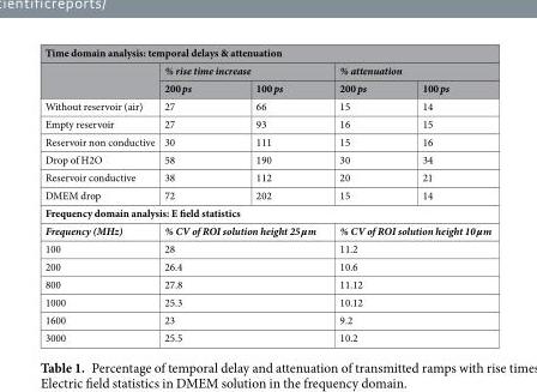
<table><thead><tr><td colspan="5">Time domain analysis: temporal delays &amp; attenuation</td></tr><tr><td rowspan="2"></td><td colspan="2">% rise time increase</td><td colspan="2">% attenuation</td></tr><tr><td>200 ps</td><td>100 ps</td><td>200 ps</td><td>100 ps</td></tr></thead><tbody><tr><td>Without reservoir (air)</td><td>27</td><td>66</td><td>15</td><td>14</td></tr><tr><td>Empty reservoir</td><td>27</td><td>93</td><td>16</td><td>15</td></tr><tr><td>Reservoir non conductive</td><td>30</td><td>111</td><td>15</td><td>16</td></tr><tr><td>Drop of H2O</td><td>58</td><td>190</td><td>30</td><td>34</td></tr><tr><td>Reservoir conductive</td><td>38</td><td>112</td><td>20</td><td>21</td></tr><tr><td>DMEM drop</td><td>72</td><td>202</td><td>15</td><td>14</td></tr><tr><td colspan="5">Frequency domain analysis: E field statistics</td></tr><tr><td>Frequency (MHz)</td><td colspan="2">% CV of ROI solution height 25 µm</td><td colspan="2">% CV of ROI solution height 10 µm</td></tr><tr><td>100</td><td colspan="2">28</td><td colspan="2">11.2</td></tr><tr><td>200</td><td colspan="2">26.4</td><td colspan="2">10.6</td></tr><tr><td>800</td><td colspan="2">27.8</td><td colspan="2">11.12</td></tr><tr><td>1000</td><td colspan="2">25.3</td><td colspan="2">10.12</td></tr><tr><td>1600</td><td colspan="2">23</td><td colspan="2">9.2</td></tr><tr><td>3000</td><td colspan="2">25.5</td><td colspan="2">10.2</td></tr></tbody></table>